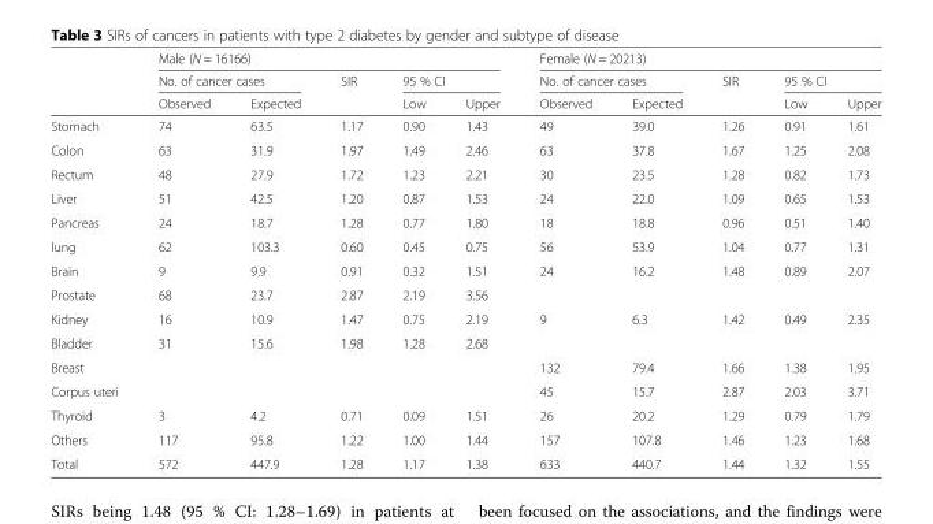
<table><thead><tr><td rowspan="3"></td><td colspan="5">Male (N = 16166)</td><td colspan="5">Female (N = 20213)</td></tr><tr><td colspan="2">No. of cancer cases</td><td rowspan="2">SIR</td><td colspan="2">95 % CI</td><td colspan="2">No. of cancer cases</td><td rowspan="2">SIR</td><td colspan="2">95 % CI</td></tr><tr><td>Observed</td><td>Expected</td><td>Low</td><td>Upper</td><td>Observed</td><td>Expected</td><td>Low</td><td>Upper</td></tr></thead><tbody><tr><td>Stomach</td><td>74</td><td>63.5</td><td>1.17</td><td>0.90</td><td>1.43</td><td>49</td><td>39.0</td><td>1.26</td><td>0.91</td><td>1.61</td></tr><tr><td>Colon</td><td>63</td><td>31.9</td><td>1.97</td><td>1.49</td><td>2.46</td><td>63</td><td>37.8</td><td>1.67</td><td>1.25</td><td>2.08</td></tr><tr><td>Rectum</td><td>48</td><td>27.9</td><td>1.72</td><td>1.23</td><td>2.21</td><td>30</td><td>23.5</td><td>1.28</td><td>0.82</td><td>1.73</td></tr><tr><td>Liver</td><td>51</td><td>42.5</td><td>1.20</td><td>0.87</td><td>1.53</td><td>24</td><td>22.0</td><td>1.09</td><td>0.65</td><td>1.53</td></tr><tr><td>Pancreas</td><td>24</td><td>18.7</td><td>1.28</td><td>0.77</td><td>1.80</td><td>18</td><td>18.8</td><td>0.96</td><td>0.51</td><td>1.40</td></tr><tr><td>lung</td><td>62</td><td>103.3</td><td>0.60</td><td>0.45</td><td>0.75</td><td>56</td><td>53.9</td><td>1.04</td><td>0.77</td><td>1.31</td></tr><tr><td>Brain</td><td>9</td><td>9.9</td><td>0.91</td><td>0.32</td><td>1.51</td><td>24</td><td>16.2</td><td>1.48</td><td>0.89</td><td>2.07</td></tr><tr><td>Prostate</td><td>68</td><td>23.7</td><td>2.87</td><td>2.19</td><td>3.56</td><td></td><td></td><td></td><td></td><td></td></tr><tr><td>Kidney</td><td>16</td><td>10.9</td><td>1.47</td><td>0.75</td><td>2.19</td><td>9</td><td>6.3</td><td>1.42</td><td>0.49</td><td>2.35</td></tr><tr><td>Bladder</td><td>31</td><td>15.6</td><td>1.98</td><td>1.28</td><td>2.68</td><td></td><td></td><td></td><td></td><td></td></tr><tr><td>Breast</td><td></td><td></td><td></td><td></td><td></td><td>132</td><td>79.4</td><td>1.66</td><td>1.38</td><td>1.95</td></tr><tr><td>Corpus uteri</td><td></td><td></td><td></td><td></td><td></td><td>45</td><td>15.7</td><td>2.87</td><td>2.03</td><td>3.71</td></tr><tr><td>Thyroid</td><td>3</td><td>4.2</td><td>0.71</td><td>0.09</td><td>1.51</td><td>26</td><td>20.2</td><td>1.29</td><td>0.79</td><td>1.79</td></tr><tr><td>Others</td><td>117</td><td>95.8</td><td>1.22</td><td>1.00</td><td>1.44</td><td>157</td><td>107.8</td><td>1.46</td><td>1.23</td><td>1.68</td></tr><tr><td>Total</td><td>572</td><td>447.9</td><td>1.28</td><td>1.17</td><td>1.38</td><td>633</td><td>440.7</td><td>1.44</td><td>1.32</td><td>1.55</td></tr></tbody></table>